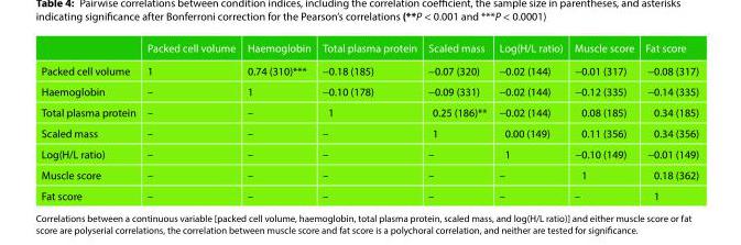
<table><thead><tr><td></td><td>Packed cell volume</td><td>Haemoglobin</td><td>Total plasma protein</td><td>Scaled mass</td><td>Log(H/L ratio)</td><td>Muscle score</td><td>Fat score</td></tr></thead><tbody><tr><td>Packed cell volume</td><td>1</td><td>0.74 (310)***</td><td>−0.18 (185)</td><td>−0.07 (320)</td><td>−0.02 (144)</td><td>−0.01 (317)</td><td>−0.08 (317)</td></tr><tr><td>Haemoglobin</td><td>–</td><td>1</td><td>−0.10 (178)</td><td>−0.09 (331)</td><td>−0.02 (144)</td><td>−0.12 (335)</td><td>−0.14 (335)</td></tr><tr><td>Total plasma protein</td><td>–</td><td>–</td><td>1</td><td>0.25 (186)**</td><td>−0.02 (144)</td><td>0.08 (185)</td><td>0.34 (185)</td></tr><tr><td>Scaled mass</td><td>–</td><td>–</td><td>–</td><td>1</td><td>0.00 (149)</td><td>0.11 (356)</td><td>0.34 (356)</td></tr><tr><td>Log(H/L ratio)</td><td>–</td><td>–</td><td>–</td><td>–</td><td>1</td><td>−0.10 (149)</td><td>−0.01 (149)</td></tr><tr><td>Muscle score</td><td>–</td><td>–</td><td>–</td><td>–</td><td>–</td><td>1</td><td>0.18 (362)</td></tr><tr><td>Fat score</td><td>–</td><td>–</td><td>–</td><td>–</td><td>–</td><td>–</td><td>1</td></tr></tbody></table>